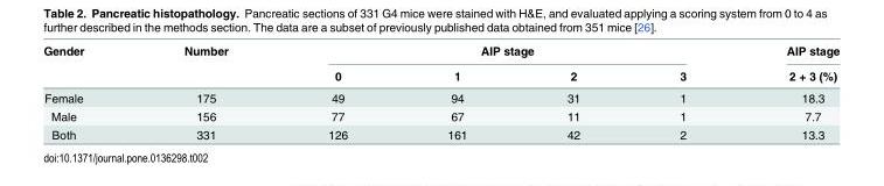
<table><thead><tr><td rowspan="2">Gender</td><td rowspan="2">Number</td><td colspan="4">AIP stage</td><td rowspan="2">AIP stage 2 + 3 (%)</td></tr><tr><td>0</td><td>1</td><td>2</td><td>3</td></tr></thead><tbody><tr><td>Female</td><td>175</td><td>49</td><td>94</td><td>31</td><td>1</td><td>18.3</td></tr><tr><td>Male</td><td>156</td><td>77</td><td>67</td><td>11</td><td>1</td><td>7.7</td></tr><tr><td>Both</td><td>331</td><td>126</td><td>161</td><td>42</td><td>2</td><td>13.3</td></tr></tbody></table>